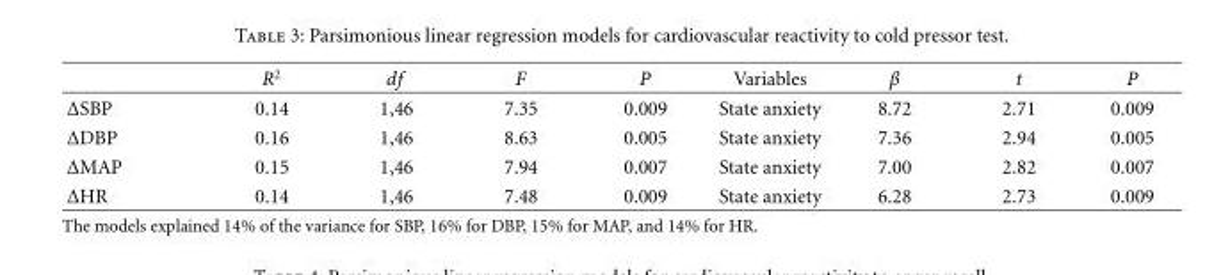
<table><thead><tr><td></td><td>R<sup>2</sup></td><td>df</td><td>F</td><td>P</td><td>Variables</td><td>β</td><td>t</td><td>P</td></tr></thead><tbody><tr><td>ΔSBP</td><td>0.14</td><td>1,46</td><td>7.35</td><td>0.009</td><td>State anxiety</td><td>8.72</td><td>2.71</td><td>0.009</td></tr><tr><td>ΔDBP</td><td>0.16</td><td>1,46</td><td>8.63</td><td>0.005</td><td>State anxiety</td><td>7.36</td><td>2.94</td><td>0.005</td></tr><tr><td>ΔMAP</td><td>0.15</td><td>1,46</td><td>7.94</td><td>0.007</td><td>State anxiety</td><td>7.00</td><td>2.82</td><td>0.007</td></tr><tr><td>ΔHR</td><td>0.14</td><td>1,46</td><td>7.48</td><td>0.009</td><td>State anxiety</td><td>6.28</td><td>2.73</td><td>0.009</td></tr></tbody></table>